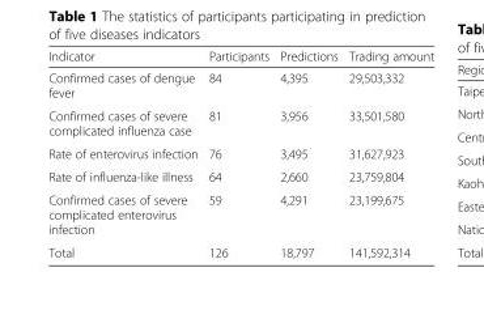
<table><thead><tr><td>Indicator</td><td>Participants</td><td>Predictions</td><td>Trading amount</td></tr></thead><tbody><tr><td>Confirmed cases of dengue fever</td><td>84</td><td>4,395</td><td>29,503,332</td></tr><tr><td>Confirmed cases of severe complicated influenza case</td><td>81</td><td>3,956</td><td>33,501,580</td></tr><tr><td>Rate of enterovirus infection</td><td>76</td><td>3,495</td><td>31,627,923</td></tr><tr><td>Rate of influenza-like illness</td><td>64</td><td>2,660</td><td>23,759,804</td></tr><tr><td>Confirmed cases of severe complicated enterovirus infection</td><td>59</td><td>4,291</td><td>23,199,675</td></tr><tr><td>Total</td><td>126</td><td>18,797</td><td>141,592,314</td></tr></tbody></table>